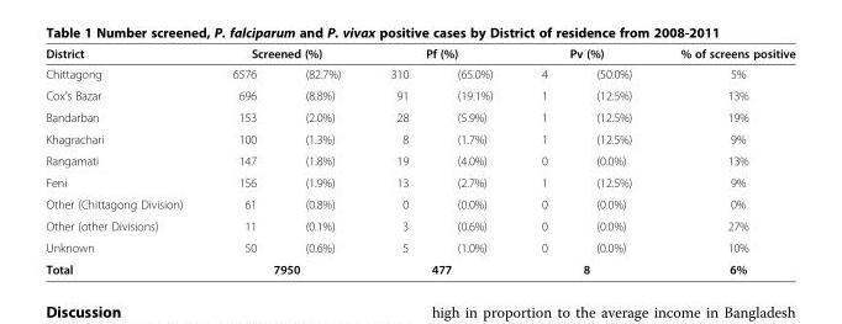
<table><thead><tr><td rowspan="2">District Chittagong</td><td colspan="2">Screened (%)</td><td colspan="2">Pf (%)</td><td colspan="2">Pv (%)</td><td rowspan="2">% of screens positive 5%</td></tr><tr><td>6576</td><td>(82.7%)</td><td>310</td><td>(65.0%)</td><td>4</td><td>(50.0%)</td></tr></thead><tbody><tr><td>Cox&#x27;s Bazar</td><td>696</td><td>(8.8%)</td><td>91</td><td>(19.1%)</td><td>1</td><td>(12.5%)</td><td>13%</td></tr><tr><td>Bandarban</td><td>153</td><td>(2.0%)</td><td>28</td><td>(5.9%)</td><td>1</td><td>(12.5%)</td><td>19%</td></tr><tr><td>Khagrachari</td><td>100</td><td>(1.3%)</td><td>8</td><td>(1.7%)</td><td>1</td><td>(12.5%)</td><td>9%</td></tr><tr><td>Rangamati</td><td>147</td><td>(1.8%)</td><td>19</td><td>(4.0%)</td><td>0</td><td>(0.0%)</td><td>13%</td></tr><tr><td>Feni</td><td>156</td><td>(1.9%)</td><td>13</td><td>(2.7%)</td><td>1</td><td>(12.5%)</td><td>9%</td></tr><tr><td>Other (Chittagong Division)</td><td>61</td><td>(0.8%)</td><td>0</td><td>(0.0%)</td><td>0</td><td>(0.0%)</td><td>0%</td></tr><tr><td>Other (other Divisions)</td><td>11</td><td>(0.1%)</td><td>3</td><td>(0.6%)</td><td>0</td><td>(0.0%)</td><td>27%</td></tr><tr><td>Unknown</td><td>50</td><td>(0.6%)</td><td>5</td><td>(1.0%)</td><td>0</td><td>(0.0%)</td><td>10%</td></tr><tr><td>Total</td><td colspan="2">7950</td><td colspan="2">477</td><td colspan="2">8</td><td>6%</td></tr></tbody></table>